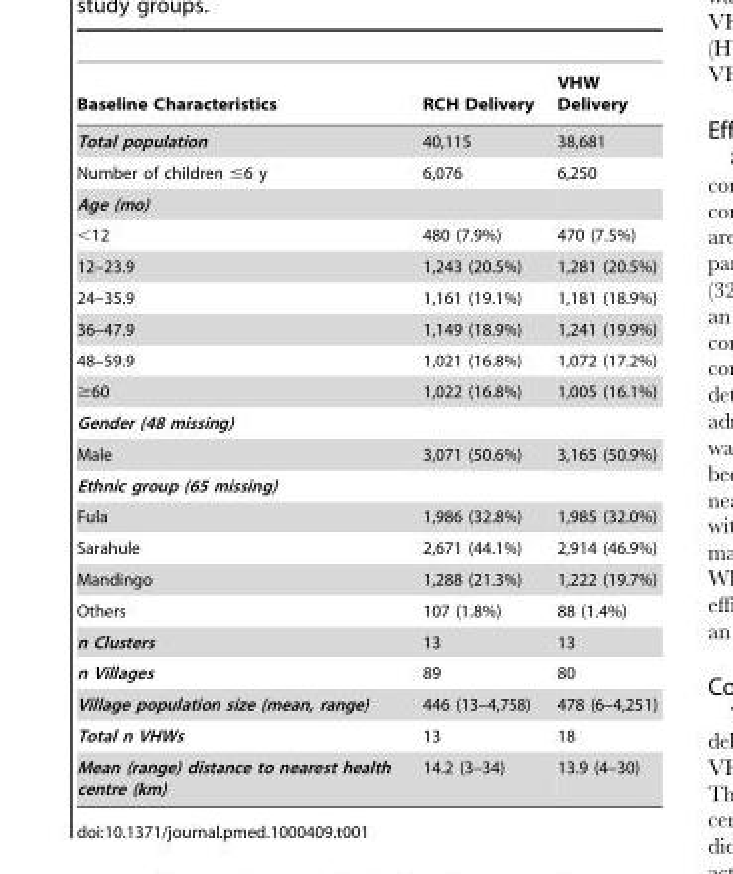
<table><thead><tr><td>Baseline Characteristics</td><td>RCH Delivery</td><td>VHW Delivery</td></tr></thead><tbody><tr><td>Total population</td><td>40,115</td><td>38,681</td></tr><tr><td>Number of children ≤6 y</td><td>6,076</td><td>6,250</td></tr><tr><td colspan="3">Age (mo)</td></tr><tr><td>&lt;12</td><td>480 (7.9%)</td><td>470 (7.5%)</td></tr><tr><td>12–23.9</td><td>1,243 (20.5%)</td><td>1,281 (20.5%)</td></tr><tr><td>24–35.9</td><td>1,161 (19.1%)</td><td>1,181 (18.9%)</td></tr><tr><td>36–47.9</td><td>1,149 (18.9%)</td><td>1,241 (19.9%)</td></tr><tr><td>48–59.9</td><td>1,021 (16.8%)</td><td>1,072 (17.2%)</td></tr><tr><td>≥60</td><td>1,022 (16.8%)</td><td>1,005 (16.1%)</td></tr><tr><td colspan="3">Gender (48 missing)</td></tr><tr><td>Male</td><td>3,071 (50.6%)</td><td>3,165 (50.9%)</td></tr><tr><td colspan="3">Ethnic group (65 missing)</td></tr><tr><td>Fula</td><td>1,986 (32.8%)</td><td>1,985 (32.0%)</td></tr><tr><td>Sarahule</td><td>2,671 (44.1%)</td><td>2,914 (46.9%)</td></tr><tr><td>Mandingo</td><td>1,288 (21.3%)</td><td>1,222 (19.7%)</td></tr><tr><td>Others</td><td>107 (1.8%)</td><td>88 (1.4%)</td></tr><tr><td>n Clusters</td><td>13</td><td>13</td></tr><tr><td>n Villages</td><td>89</td><td>80</td></tr><tr><td>Village population size (mean, range)</td><td>446 (13–4,758)</td><td>478 (6–4,251)</td></tr><tr><td>Total n VHWs</td><td>13</td><td>18</td></tr><tr><td>Mean (range) distance to nearest health centre (km)</td><td>14.2 (3–34)</td><td>13.9 (4–30)</td></tr></tbody></table>